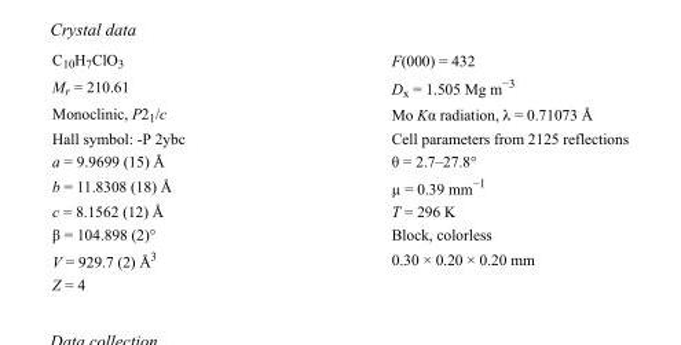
<table><tbody><tr><td>C<sub>10</sub>H<sub>7</sub>ClO<sub>3</sub></td><td>F(000) = 432</td></tr><tr><td>M<sub>r</sub> = 210.61</td><td>D<sub>x</sub> = 1.505 Mg m<sup>−3</sup></td></tr><tr><td>Monoclinic, P2<sub>1</sub>/c</td><td>Mo Kα radiation, λ = 0.71073 Å</td></tr><tr><td>Hall symbol: -P 2ybc</td><td>Cell parameters from 2125 reflections</td></tr><tr><td>a = 9.9699 (15) Å</td><td>θ = 2.7–27.8°</td></tr><tr><td>b = 11.8308 (18) Å</td><td>µ = 0.39 mm<sup>−1</sup></td></tr><tr><td>c = 8.1562 (12) Å</td><td>T = 296 K</td></tr><tr><td>β = 104.898 (2)°</td><td>Block, colorless</td></tr><tr><td>V = 929.7 (2) Å<sup>3</sup></td><td>0.30 × 0.20 × 0.20 mm</td></tr><tr><td>Z = 4</td><td></td></tr></tbody></table>